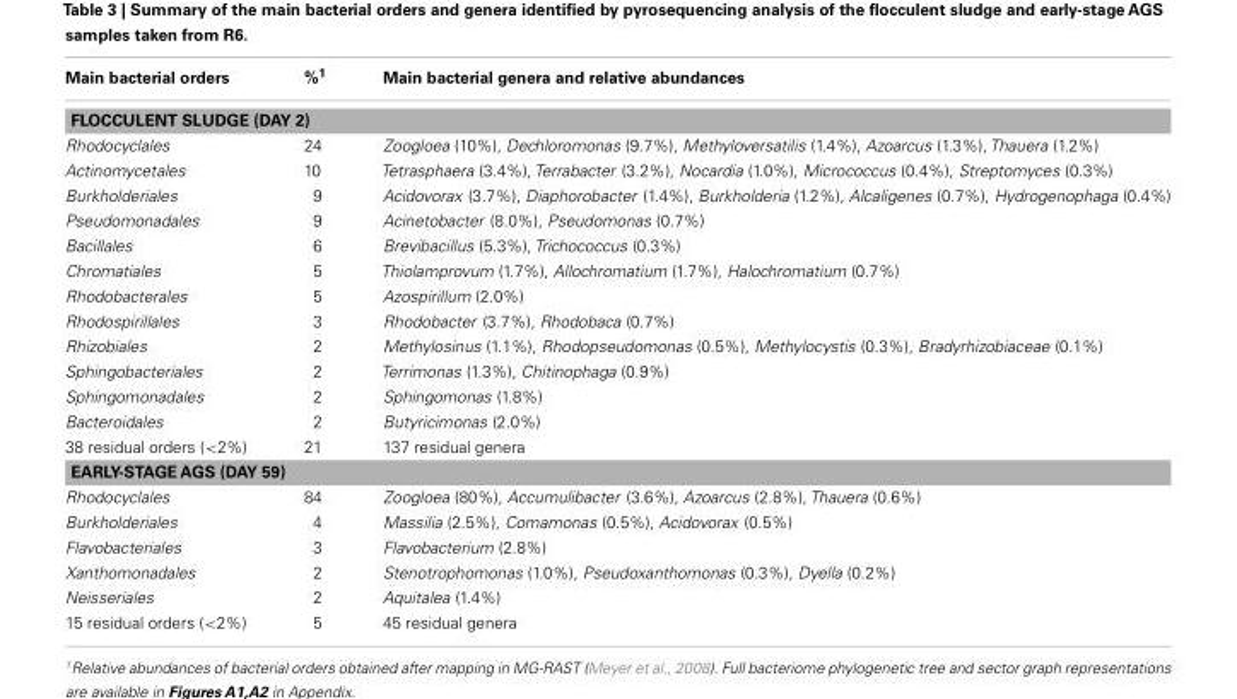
<table><thead><tr><td>Main bacterial orders</td><td>%<sup>1</sup></td><td>Main bacterial genera and relative abundances</td></tr></thead><tbody><tr><td colspan="3">FLOCCULENT SLUDGE (DAY 2)</td></tr><tr><td>Rhodocyclales</td><td>24</td><td>Zoogloea (10%), Dechloromonas (9.7%), Methyloversatilis (1.4%), Azoarcus (1.3%), Thauera (1.2%)</td></tr><tr><td>Actinomycetales</td><td>10</td><td>Tetrasphaera (3.4%), Terrabacter (3.2%), Nocardia (1.0%), Micrococcus (0.4%), Streptomyces (0.3%)</td></tr><tr><td>Burkholderiales</td><td>9</td><td>Acidovorax (3.7%), Diaphorobacter (1.4%), Burkholderia (1.2%), Alcaligenes (0.7%), Hydrogenophaga (0.4%)</td></tr><tr><td>Pseudomonadales</td><td>9</td><td>Acinetobacter (8.0%), Pseudomonas (0.7%)</td></tr><tr><td>Bacillales</td><td>6</td><td>Brevibacillus (5.3%), Trichococcus (0.3%)</td></tr><tr><td>Chromatiales</td><td>5</td><td>Thiolamprovum (1.7%), Allochromatium (1.7%), Halochromatium (0.7%)</td></tr><tr><td>Rhodobacterales</td><td>5</td><td>Azospirillum (2.0%)</td></tr><tr><td>Rhodospirillales</td><td>3</td><td>Rhodobacter (3.7%), Rhodobaca (0.7%)</td></tr><tr><td>Rhizobiales</td><td>2</td><td>Methylosinus (1.1%), Rhodopseudomonas (0.5%), Methylocystis (0.3%), Bradyrhizobiaceae (0.1%)</td></tr><tr><td>Sphingobacteriales</td><td>2</td><td>Terrimonas (1.3%), Chitinophaga (0.9%)</td></tr><tr><td>Sphingomonadales</td><td>2</td><td>Sphingomonas (1.8%)</td></tr><tr><td>Bacteroidales</td><td>2</td><td>Butyricimonas (2.0%)</td></tr><tr><td>38 residual orders (&lt;2%)</td><td>21</td><td>137 residual genera</td></tr><tr><td colspan="3">EARLY-STAGE AGS (DAY 59)</td></tr><tr><td>Rhodocyclales</td><td>84</td><td>Zoogloea (80%), Accumulibacter (3.6%), Azoarcus (2.8%), Thauera (0.6%)</td></tr><tr><td>Burkholderiales</td><td>4</td><td>Massilia (2.5%), Comamonas (0.5%), Acidovorax (0.5%)</td></tr><tr><td>Flavobacteriales</td><td>3</td><td>Flavobacterium (2.8%)</td></tr><tr><td>Xanthomonadales</td><td>2</td><td>Stenotrophomonas (1.0%), Pseudoxanthomonas (0.3%), Dyella (0.2%)</td></tr><tr><td>Neisseriales</td><td>2</td><td>Aquitalea (1.4%)</td></tr><tr><td>15 residual orders (&lt;2%)</td><td>5</td><td>45 residual genera</td></tr></tbody></table>